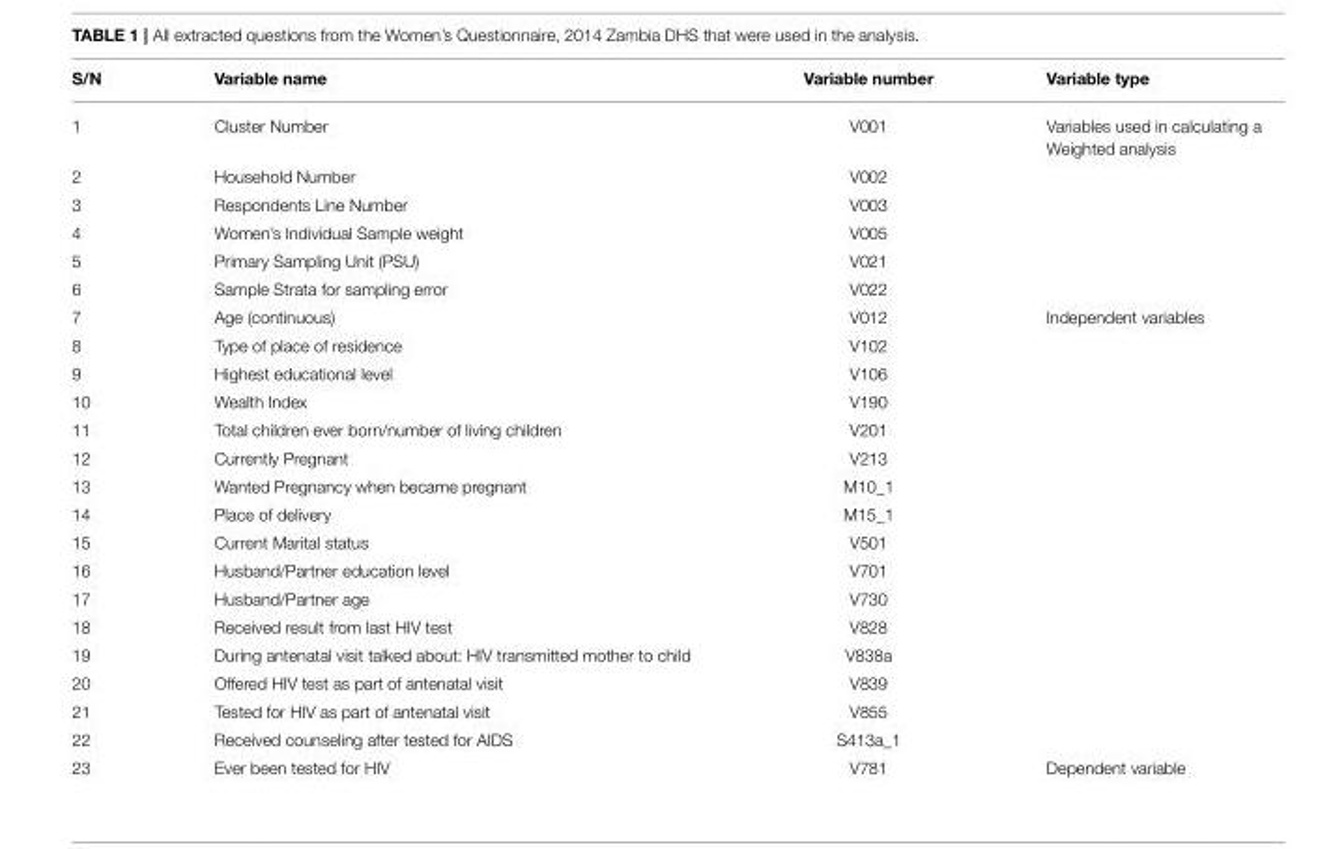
<table><thead><tr><td>S/N</td><td>Variable name</td><td>Variable number</td><td>Variable type</td></tr></thead><tbody><tr><td>1</td><td>Cluster Number</td><td>V001</td><td>Variables used in calculating a Weighted analysis</td></tr><tr><td>2</td><td>Household Number</td><td>V002</td><td></td></tr><tr><td>3</td><td>Respondents Line Number</td><td>V003</td><td></td></tr><tr><td>4</td><td>Women’s Individual Sample weight</td><td>V005</td><td></td></tr><tr><td>5</td><td>Primary Sampling Unit (PSU)</td><td>V021</td><td></td></tr><tr><td>6</td><td>Sample Strata for sampling error</td><td>V022</td><td></td></tr><tr><td>7</td><td>Age (continuous)</td><td>V012</td><td>Independent variables</td></tr><tr><td>8</td><td>Type of place of residence</td><td>V102</td><td></td></tr><tr><td>9</td><td>Highest educational level</td><td>V106</td><td></td></tr><tr><td>10</td><td>Wealth Index</td><td>V190</td><td></td></tr><tr><td>11</td><td>Total children ever born/number of living children</td><td>V201</td><td></td></tr><tr><td>12</td><td>Currently Pregnant</td><td>V213</td><td></td></tr><tr><td>13</td><td>Wanted Pregnancy when became pregnant</td><td>M10_1</td><td></td></tr><tr><td>14</td><td>Place of delivery</td><td>M15_1</td><td></td></tr><tr><td>15</td><td>Current Marital status</td><td>V501</td><td></td></tr><tr><td>16</td><td>Husband/Partner education level</td><td>V701</td><td></td></tr><tr><td>17</td><td>Husband/Partner age</td><td>V730</td><td></td></tr><tr><td>18</td><td>Received result from last HIV test</td><td>V828</td><td></td></tr><tr><td>19</td><td>During antenatal visit talked about: HIV transmitted mother to child</td><td>V838a</td><td></td></tr><tr><td>20</td><td>Offered HIV test as part of antenatal visit</td><td>V839</td><td></td></tr><tr><td>21</td><td>Tested for HIV as part of antenatal visit</td><td>V855</td><td></td></tr><tr><td>22</td><td>Received counseling after tested for AIDS</td><td>S413a_1</td><td></td></tr><tr><td>23</td><td>Ever been tested for HIV</td><td>V781</td><td>Dependent variable</td></tr></tbody></table>